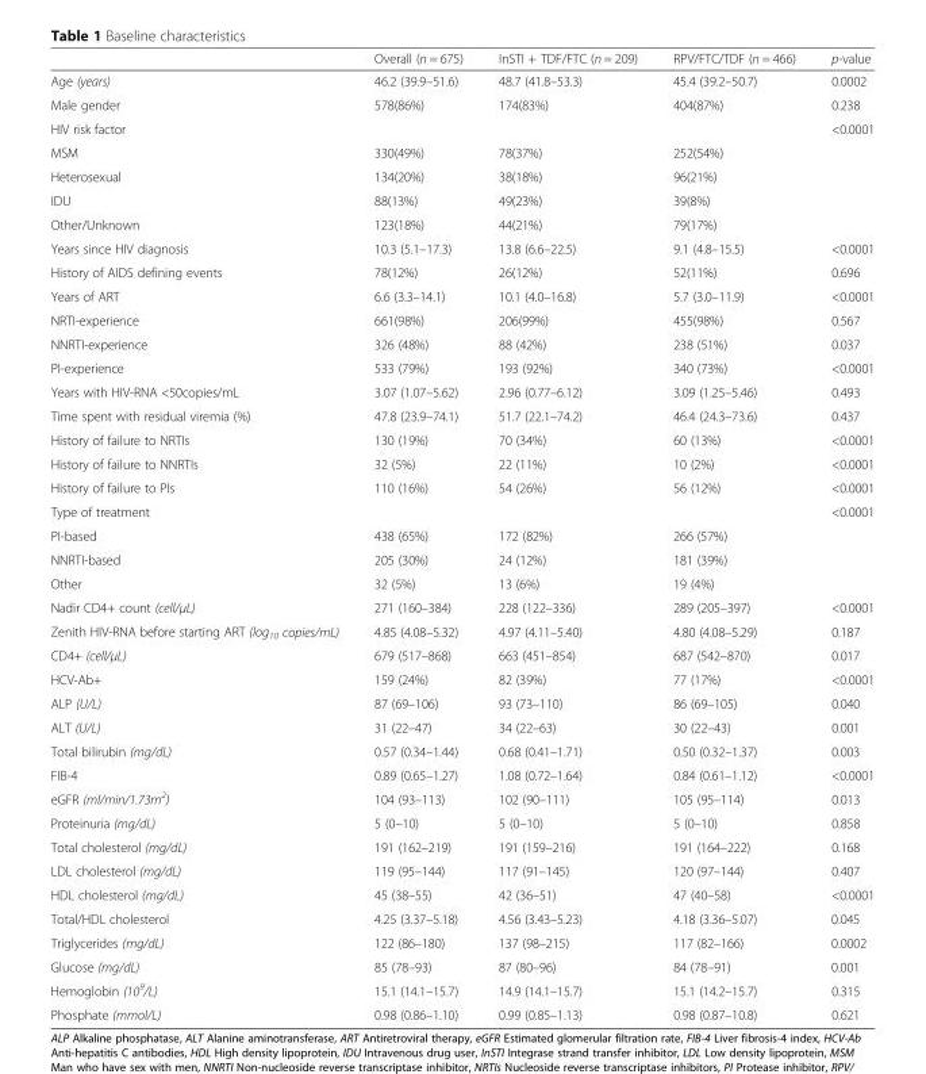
<table><thead><tr><td></td><td>Overall (n = 675)</td><td>InSTI + TDF/FTC (n = 209)</td><td>RPV/FTC/TDF (n = 466)</td><td>p-value</td></tr></thead><tbody><tr><td>Age (years)</td><td>46.2 (39.9–51.6)</td><td>48.7 (41.8–53.3)</td><td>45.4 (39.2–50.7)</td><td>0.0002</td></tr><tr><td>Male gender</td><td>578(86%)</td><td>174(83%)</td><td>404(87%)</td><td>0.238</td></tr><tr><td>HIV risk factor</td><td></td><td></td><td></td><td>&lt;0.0001</td></tr><tr><td>MSM</td><td>330(49%)</td><td>78(37%)</td><td>252(54%)</td><td></td></tr><tr><td>Heterosexual</td><td>134(20%)</td><td>38(18%)</td><td>96(21%)</td><td></td></tr><tr><td>IDU</td><td>88(13%)</td><td>49(23%)</td><td>39(8%)</td><td></td></tr><tr><td>Other/Unknown</td><td>123(18%)</td><td>44(21%)</td><td>79(17%)</td><td></td></tr><tr><td>Years since HIV diagnosis</td><td>10.3 (5.1–17.3)</td><td>13.8 (6.6–22.5)</td><td>9.1 (4.8–15.5)</td><td>&lt;0.0001</td></tr><tr><td>History of AIDS defining events</td><td>78(12%)</td><td>26(12%)</td><td>52(11%)</td><td>0.696</td></tr><tr><td>Years of ART</td><td>6.6 (3.3–14.1)</td><td>10.1 (4.0–16.8)</td><td>5.7 (3.0–11.9)</td><td>&lt;0.0001</td></tr><tr><td>NRTI-experience</td><td>661(98%)</td><td>206(99%)</td><td>455(98%)</td><td>0.567</td></tr><tr><td>NNRTI-experience</td><td>326 (48%)</td><td>88 (42%)</td><td>238 (51%)</td><td>0.037</td></tr><tr><td>PI-experience</td><td>533 (79%)</td><td>193 (92%)</td><td>340 (73%)</td><td>&lt;0.0001</td></tr><tr><td>Years with HIV-RNA &lt;50copies/mL</td><td>3.07 (1.07–5.62)</td><td>2.96 (0.77–6.12)</td><td>3.09 (1.25–5.46)</td><td>0.493</td></tr><tr><td>Time spent with residual viremia (%)</td><td>47.8 (23.9–74.1)</td><td>51.7 (22.1–74.2)</td><td>46.4 (24.3–73.6)</td><td>0.437</td></tr><tr><td>History of failure to NRTIs</td><td>130 (19%)</td><td>70 (34%)</td><td>60 (13%)</td><td>&lt;0.0001</td></tr><tr><td>History of failure to NNRTIs</td><td>32 (5%)</td><td>22 (11%)</td><td>10 (2%)</td><td>&lt;0.0001</td></tr><tr><td>History of failure to PIs</td><td>110 (16%)</td><td>54 (26%)</td><td>56 (12%)</td><td>&lt;0.0001</td></tr><tr><td>Type of treatment</td><td></td><td></td><td></td><td>&lt;0.0001</td></tr><tr><td>PI-based</td><td>438 (65%)</td><td>172 (82%)</td><td>266 (57%)</td><td></td></tr><tr><td>NNRTI-based</td><td>205 (30%)</td><td>24 (12%)</td><td>181 (39%)</td><td></td></tr><tr><td>Other</td><td>32 (5%)</td><td>13 (6%)</td><td>19 (4%)</td><td></td></tr><tr><td>Nadir CD4+ count (cell/μL)</td><td>271 (160–384)</td><td>228 (122–336)</td><td>289 (205–397)</td><td>&lt;0.0001</td></tr><tr><td>Zenith HIV-RNA before starting ART (log<sub>10</sub> copies/mL)</td><td>4.85 (4.08–5.32)</td><td>4.97 (4.11–5.40)</td><td>4.80 (4.08–5.29)</td><td>0.187</td></tr><tr><td>CD4+ (cell/μL)</td><td>679 (517–868)</td><td>663 (451–854)</td><td>687 (542–870)</td><td>0.017</td></tr><tr><td>HCV-Ab+</td><td>159 (24%)</td><td>82 (39%)</td><td>77 (17%)</td><td>&lt;0.0001</td></tr><tr><td>ALP (U/L)</td><td>87 (69–106)</td><td>93 (73–110)</td><td>86 (69–105)</td><td>0.040</td></tr><tr><td>ALT (U/L)</td><td>31 (22–47)</td><td>34 (22–63)</td><td>30 (22–43)</td><td>0.001</td></tr><tr><td>Total bilirubin (mg/dL)</td><td>0.57 (0.34–1.44)</td><td>0.68 (0.41–1.71)</td><td>0.50 (0.32–1.37)</td><td>0.003</td></tr><tr><td>FIB-4</td><td>0.89 (0.65–1.27)</td><td>1.08 (0.72–1.64)</td><td>0.84 (0.61–1.12)</td><td>&lt;0.0001</td></tr><tr><td>eGFR (ml/min/1.73m<sup>2</sup>)</td><td>104 (93–113)</td><td>102 (90–111)</td><td>105 (95–114)</td><td>0.013</td></tr><tr><td>Proteinuria (mg/dL)</td><td>5 (0–10)</td><td>5 (0–10)</td><td>5 (0–10)</td><td>0.858</td></tr><tr><td>Total cholesterol (mg/dL)</td><td>191 (162–219)</td><td>191 (159–216)</td><td>191 (164–222)</td><td>0.168</td></tr><tr><td>LDL cholesterol (mg/dL)</td><td>119 (95–144)</td><td>117 (91–145)</td><td>120 (97–144)</td><td>0.407</td></tr><tr><td>HDL cholesterol (mg/dL)</td><td>45 (38–55)</td><td>42 (36–51)</td><td>47 (40–58)</td><td>&lt;0.0001</td></tr><tr><td>Total/HDL cholesterol</td><td>4.25 (3.37–5.18)</td><td>4.56 (3.43–5.23)</td><td>4.18 (3.36–5.07)</td><td>0.045</td></tr><tr><td>Triglycerides (mg/dL)</td><td>122 (86–180)</td><td>137 (98–215)</td><td>117 (82–166)</td><td>0.0002</td></tr><tr><td>Glucose (mg/dL)</td><td>85 (78–93)</td><td>87 (80–96)</td><td>84 (78–91)</td><td>0.001</td></tr><tr><td>Hemoglobin (10<sup>9</sup>/L)</td><td>15.1 (14.1–15.7)</td><td>14.9 (14.1–15.7)</td><td>15.1 (14.2–15.7)</td><td>0.315</td></tr><tr><td>Phosphate (mmol/L)</td><td>0.98 (0.86–1.10)</td><td>0.99 (0.85–1.13)</td><td>0.98 (0.87–10.8)</td><td>0.621</td></tr></tbody></table>